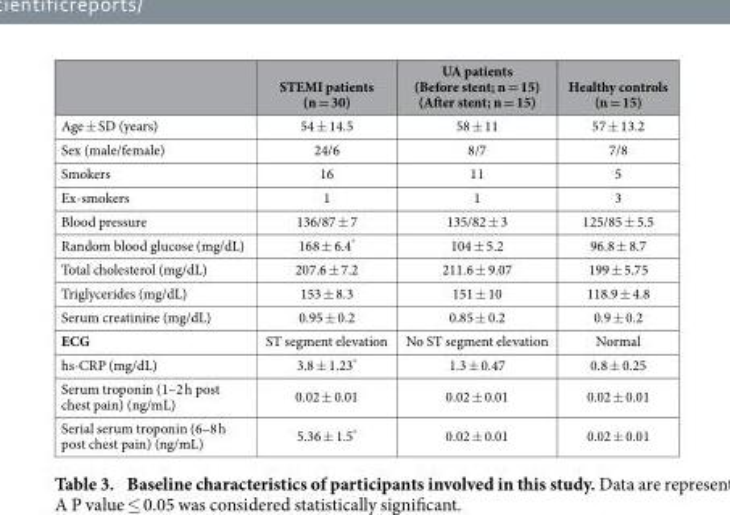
<table><thead><tr><td></td><td>STEMI patients (n = 30)</td><td>UA patients (Before stent; n = 15) (After stent; n = 15)</td><td>Healthy controls (n = 15)</td></tr></thead><tbody><tr><td>Age ± SD (years)</td><td>54 ± 14.5</td><td>58 ± 11</td><td>57 ± 13.2</td></tr><tr><td>Sex (male/female)</td><td>24/6</td><td>8/7</td><td>7/8</td></tr><tr><td>Smokers</td><td>16</td><td>11</td><td>5</td></tr><tr><td>Ex-smokers</td><td>1</td><td>1</td><td>3</td></tr><tr><td>Blood pressure</td><td>136/87 ± 7</td><td>135/82 ± 3</td><td>125/85 ± 5.5</td></tr><tr><td>Random blood glucose (mg/dL)</td><td>168 ± 6.4*</td><td>104 ± 5.2</td><td>96.8 ± 8.7</td></tr><tr><td>Total cholesterol (mg/dL)</td><td>207.6 ± 7.2</td><td>211.6 ± 9.07</td><td>199 ± 5.75</td></tr><tr><td>Triglycerides (mg/dL)</td><td>153 ± 8.3</td><td>151 ± 10</td><td>118.9 ± 4.8</td></tr><tr><td>Serum creatinine (mg/dL)</td><td>0.95 ± 0.2</td><td>0.85 ± 0.2</td><td>0.9 ± 0.2</td></tr><tr><td>ECG</td><td>ST segment elevation</td><td>No ST segment elevation</td><td>Normal</td></tr><tr><td>hs-CRP (mg/dL)</td><td>3.8 ± 1.23*</td><td>1.3 ± 0.47</td><td>0.8 ± 0.25</td></tr><tr><td>Serum troponin (1–2 h post chest pain) (ng/mL)</td><td>0.02 ± 0.01</td><td>0.02 ± 0.01</td><td>0.02 ± 0.01</td></tr><tr><td>Serial serum troponin (6–8 h post chest pain) (ng/mL)</td><td>5.36 ± 1.5*</td><td>0.02 ± 0.01</td><td>0.02 ± 0.01</td></tr></tbody></table>